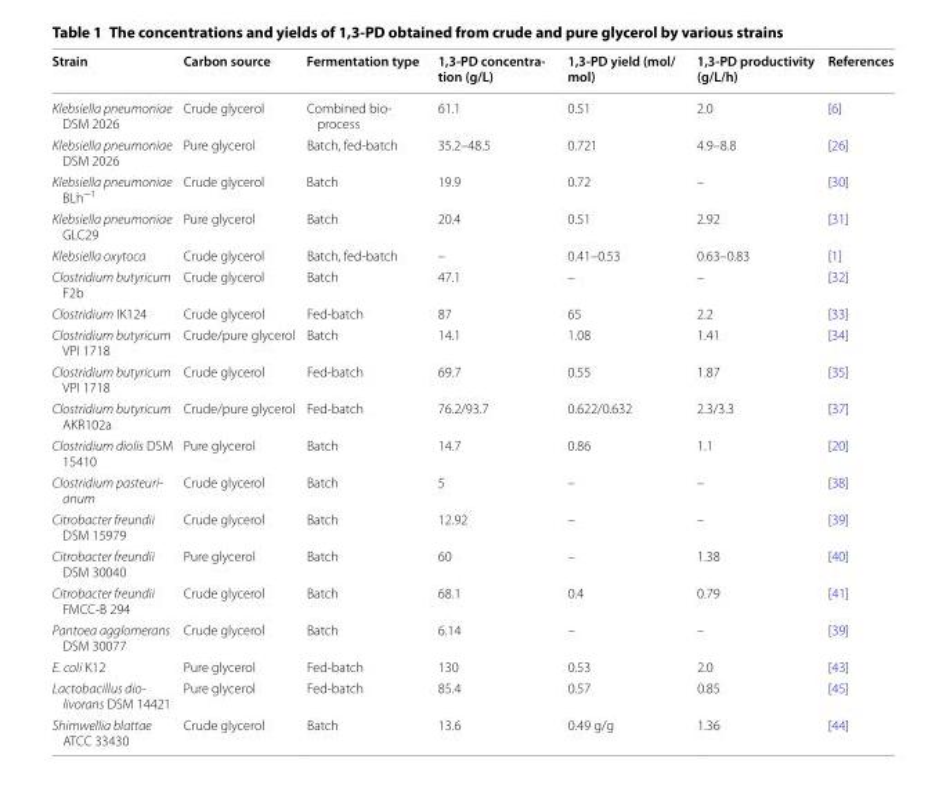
<table><thead><tr><td>Strain</td><td>Carbon source</td><td>Fermentation type</td><td>1,3‑PD concentra‑ tion (g/L)</td><td>1,3‑PD yield (mol/ mol)</td><td>1,3‑PD productivity (g/L/h)</td><td>References</td></tr></thead><tbody><tr><td>Klebsiella pneumoniae DSM 2026</td><td>Crude glycerol</td><td>Combined bio‑ process</td><td>61.1</td><td>0.51</td><td>2.0</td><td>[6]</td></tr><tr><td>Klebsiella pneumoniae DSM 2026</td><td>Pure glycerol</td><td>Batch, fed‑batch</td><td>35.2–48.5</td><td>0.721</td><td>4.9–8.8</td><td>[26]</td></tr><tr><td>Klebsiella pneumoniae BLh<sup>−1</sup></td><td>Crude glycerol</td><td>Batch</td><td>19.9</td><td>0.72</td><td>–</td><td>[30]</td></tr><tr><td>Klebsiella pneumoniae GLC29</td><td>Pure glycerol</td><td>Batch</td><td>20.4</td><td>0.51</td><td>2.92</td><td>[31]</td></tr><tr><td>Klebsiella oxytoca</td><td>Crude glycerol</td><td>Batch, fed‑batch</td><td>–</td><td>0.41–0.53</td><td>0.63–0.83</td><td>[1]</td></tr><tr><td>Clostridium butyricum F2b</td><td>Crude glycerol</td><td>Batch</td><td>47.1</td><td>–</td><td>–</td><td>[32]</td></tr><tr><td>Clostridium IK124</td><td>Crude glycerol</td><td>Fed‑batch</td><td>87</td><td>65</td><td>2.2</td><td>[33]</td></tr><tr><td>Clostridium butyricum VPI 1718</td><td>Crude/pure glycerol</td><td>Batch</td><td>14.1</td><td>1.08</td><td>1.41</td><td>[34]</td></tr><tr><td>Clostridium butyricum VPI 1718</td><td>Crude glycerol</td><td>Fed‑batch</td><td>69.7</td><td>0.55</td><td>1.87</td><td>[35]</td></tr><tr><td>Clostridium butyricum AKR102a</td><td>Crude/pure glycerol</td><td>Fed‑batch</td><td>76.2/93.7</td><td>0.622/0.632</td><td>2.3/3.3</td><td>[37]</td></tr><tr><td>Clostridium diolis DSM 15410</td><td>Pure glycerol</td><td>Batch</td><td>14.7</td><td>0.86</td><td>1.1</td><td>[20]</td></tr><tr><td>Clostridium pasteuri- anum</td><td>Crude glycerol</td><td>Batch</td><td>5</td><td>–</td><td>–</td><td>[38]</td></tr><tr><td>Citrobacter freundii DSM 15979</td><td>Crude glycerol</td><td>Batch</td><td>12.92</td><td>–</td><td>–</td><td>[39]</td></tr><tr><td>Citrobacter freundii DSM 30040</td><td>Pure glycerol</td><td>Batch</td><td>60</td><td>–</td><td>1.38</td><td>[40]</td></tr><tr><td>Citrobacter freundii FMCC‑B 294</td><td>Crude glycerol</td><td>Batch</td><td>68.1</td><td>0.4</td><td>0.79</td><td>[41]</td></tr><tr><td>Pantoea agglomerans DSM 30077</td><td>Crude glycerol</td><td>Batch</td><td>6.14</td><td>–</td><td>–</td><td>[39]</td></tr><tr><td>E. coli K12</td><td>Pure glycerol</td><td>Fed‑batch</td><td>130</td><td>0.53</td><td>2.0</td><td>[43]</td></tr><tr><td>Lactobacillus dio- livorans DSM 14421</td><td>Pure glycerol</td><td>Fed‑batch</td><td>85.4</td><td>0.57</td><td>0.85</td><td>[45]</td></tr><tr><td>Shimwellia blattae ATCC 33430</td><td>Crude glycerol</td><td>Batch</td><td>13.6</td><td>0.49 g/g</td><td>1.36</td><td>[44]</td></tr></tbody></table>